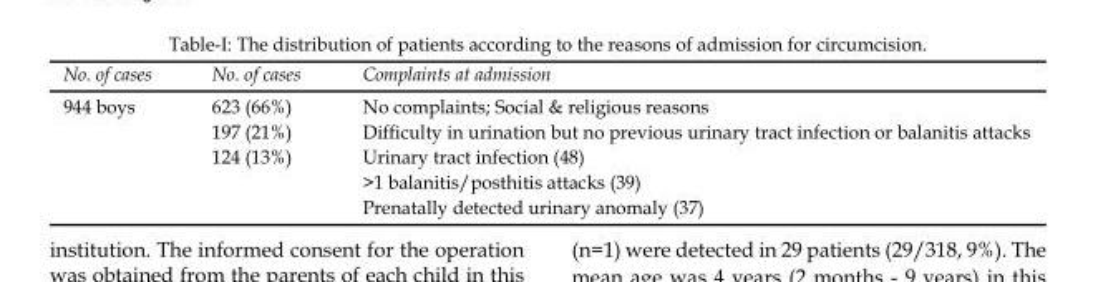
<table><thead><tr><td>No. of cases</td><td>No. of cases</td><td>Complaints at admission</td></tr></thead><tbody><tr><td rowspan="5">944 boys</td><td>623 (66%)</td><td>No complaints; Social &amp; religious reasons</td></tr><tr><td>197 (21%)</td><td>Difficulty in urination but no previous urinary tract infection or balanitis attacks</td></tr><tr><td rowspan="3">124 (13%)</td><td>Urinary tract infection (48)</td></tr><tr><td>&gt;1 balanitis/posthitis attacks (39)</td></tr><tr><td>Prenatally detected urinary anomaly (37)</td></tr></tbody></table>